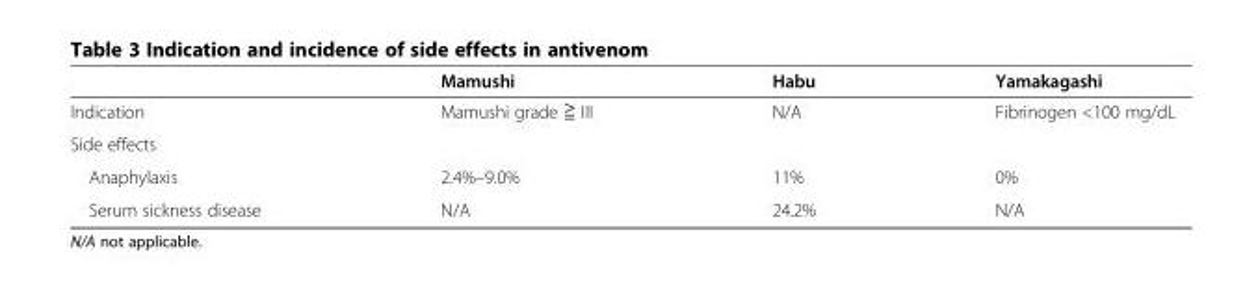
<table><thead><tr><td></td><td>Mamushi</td><td>Habu</td><td>Yamakagashi</td></tr></thead><tbody><tr><td>Indication</td><td>Mamushi grade ≧ III</td><td>N/A</td><td>Fibrinogen &lt;100 mg/dL</td></tr><tr><td colspan="4">Side effects</td></tr><tr><td>Anaphylaxis</td><td>2.4%–9.0%</td><td>11%</td><td>0%</td></tr><tr><td>Serum sickness disease</td><td>N/A</td><td>24.2%</td><td>N/A</td></tr></tbody></table>